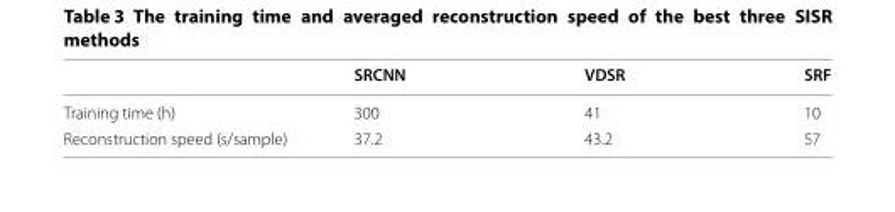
<table><thead><tr><td></td><td>SRCNN</td><td>VDSR</td><td>SRF</td></tr></thead><tbody><tr><td>Training time (h)</td><td>300</td><td>41</td><td>10</td></tr><tr><td>Reconstruction speed (s/sample)</td><td>37.2</td><td>43.2</td><td>57</td></tr></tbody></table>